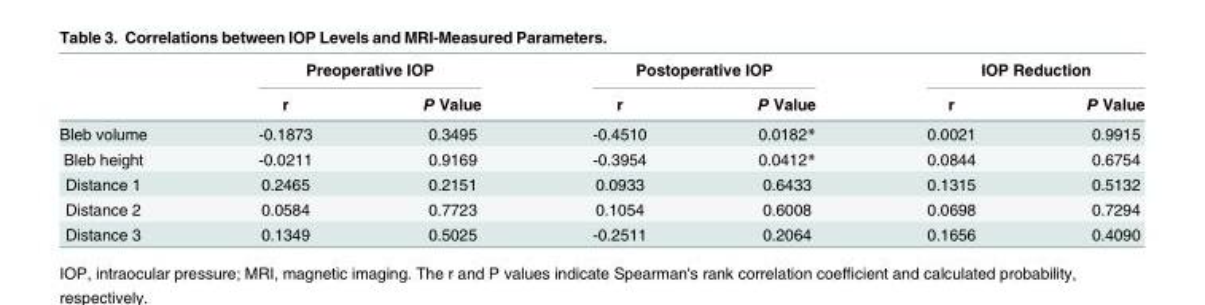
<table><thead><tr><td rowspan="2"></td><td colspan="2">Preoperative IOP</td><td colspan="2">Postoperative IOP</td><td colspan="2">IOP Reduction</td></tr><tr><td>r</td><td>P Value</td><td>r</td><td>P Value</td><td>r</td><td>P Value</td></tr></thead><tbody><tr><td>Bleb volume</td><td>-0.1873</td><td>0.3495</td><td>-0.4510</td><td>0.0182*</td><td>0.0021</td><td>0.9915</td></tr><tr><td>Bleb height</td><td>-0.0211</td><td>0.9169</td><td>-0.3954</td><td>0.0412*</td><td>0.0844</td><td>0.6754</td></tr><tr><td>Distance 1</td><td>0.2465</td><td>0.2151</td><td>0.0933</td><td>0.6433</td><td>0.1315</td><td>0.5132</td></tr><tr><td>Distance 2</td><td>0.0584</td><td>0.7723</td><td>0.1054</td><td>0.6008</td><td>0.0698</td><td>0.7294</td></tr><tr><td>Distance 3</td><td>0.1349</td><td>0.5025</td><td>-0.2511</td><td>0.2064</td><td>0.1656</td><td>0.4090</td></tr></tbody></table>